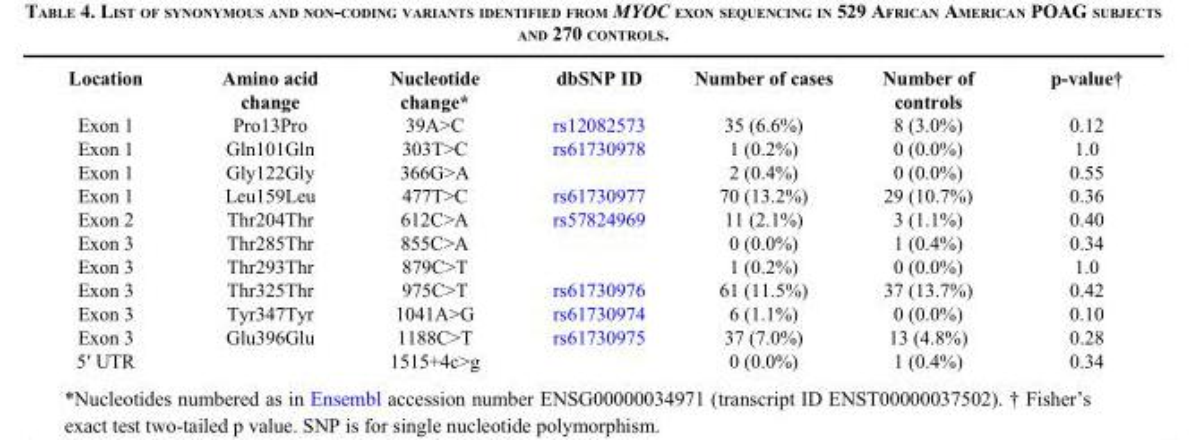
<table><thead><tr><td>Location</td><td>Amino acid change</td><td>Nucleotide change*</td><td>dbSNP ID</td><td>Number of cases</td><td>Number of controls</td><td>p-value†</td></tr></thead><tbody><tr><td>Exon 1</td><td>Pro13Pro</td><td>39A&gt;C</td><td>rs12082573</td><td>35 (6.6%)</td><td>8 (3.0%)</td><td>0.12</td></tr><tr><td>Exon 1</td><td>Gln101Gln</td><td>303T&gt;C</td><td>rs61730978</td><td>1 (0.2%)</td><td>0 (0.0%)</td><td>1.0</td></tr><tr><td>Exon 1</td><td>Gly122Gly</td><td>366G&gt;A</td><td></td><td>2 (0.4%)</td><td>0 (0.0%)</td><td>0.55</td></tr><tr><td>Exon 1</td><td>Leu159Leu</td><td>477T&gt;C</td><td>rs61730977</td><td>70 (13.2%)</td><td>29 (10.7%)</td><td>0.36</td></tr><tr><td>Exon 2</td><td>Thr204Thr</td><td>612C&gt;A</td><td>rs57824969</td><td>11 (2.1%)</td><td>3 (1.1%)</td><td>0.40</td></tr><tr><td>Exon 3</td><td>Thr285Thr</td><td>855C&gt;A</td><td></td><td>0 (0.0%)</td><td>1 (0.4%)</td><td>0.34</td></tr><tr><td>Exon 3</td><td>Thr293Thr</td><td>879C&gt;T</td><td></td><td>1 (0.2%)</td><td>0 (0.0%)</td><td>1.0</td></tr><tr><td>Exon 3</td><td>Thr325Thr</td><td>975C&gt;T</td><td>rs61730976</td><td>61 (11.5%)</td><td>37 (13.7%)</td><td>0.42</td></tr><tr><td>Exon 3</td><td>Tyr347Tyr</td><td>1041A&gt;G</td><td>rs61730974</td><td>6 (1.1%)</td><td>0 (0.0%)</td><td>0.10</td></tr><tr><td>Exon 3</td><td>Glu396Glu</td><td>1188C&gt;T</td><td>rs61730975</td><td>37 (7.0%)</td><td>13 (4.8%)</td><td>0.28</td></tr><tr><td>5′ UTR</td><td></td><td>1515+4c&gt;g</td><td></td><td>0 (0.0%)</td><td>1 (0.4%)</td><td>0.34</td></tr></tbody></table>